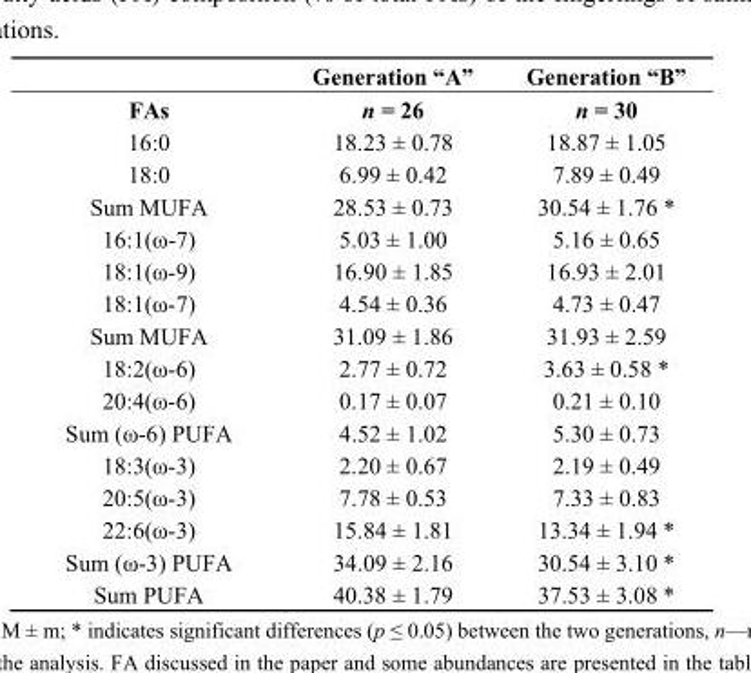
<table><thead><tr><td></td><td>Generation “А”</td><td>Generation “B”</td></tr></thead><tbody><tr><td>FAs</td><td>n = 26</td><td>n = 30</td></tr><tr><td>16:0</td><td>18.23 ± 0.78</td><td>18.87 ± 1.05</td></tr><tr><td>18:0</td><td>6.99 ± 0.42</td><td>7.89 ± 0.49</td></tr><tr><td>Sum MUFA</td><td>28.53 ± 0.73</td><td>30.54 ± 1.76 *</td></tr><tr><td>16:1(ω-7)</td><td>5.03 ± 1.00</td><td>5.16 ± 0.65</td></tr><tr><td>18:1(ω-9)</td><td>16.90 ± 1.85</td><td>16.93 ± 2.01</td></tr><tr><td>18:1(ω-7)</td><td>4.54 ± 0.36</td><td>4.73 ± 0.47</td></tr><tr><td>Sum MUFA</td><td>31.09 ± 1.86</td><td>31.93 ± 2.59</td></tr><tr><td>18:2(ω-6)</td><td>2.77 ± 0.72</td><td>3.63 ± 0.58 *</td></tr><tr><td>20:4(ω-6)</td><td>0.17 ± 0.07</td><td>0.21 ± 0.10</td></tr><tr><td>Sum (ω-6) PUFA</td><td>4.52 ± 1.02</td><td>5.30 ± 0.73</td></tr><tr><td>18:3(ω-3)</td><td>2.20 ± 0.67</td><td>2.19 ± 0.49</td></tr><tr><td>20:5(ω-3)</td><td>7.78 ± 0.53</td><td>7.33 ± 0.83</td></tr><tr><td>22:6(ω-3)</td><td>15.84 ± 1.81</td><td>13.34 ± 1.94 *</td></tr><tr><td>Sum (ω-3) PUFA</td><td>34.09 ± 2.16</td><td>30.54 ± 3.10 *</td></tr><tr><td>Sum PUFA</td><td>40.38 ± 1.79</td><td>37.53 ± 3.08 *</td></tr></tbody></table>